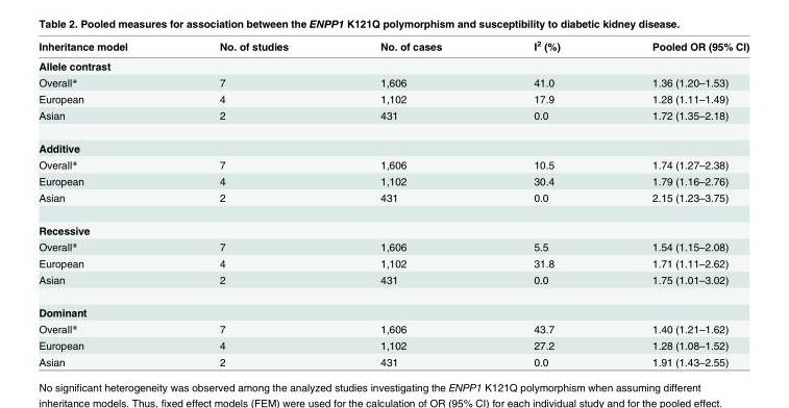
<table><thead><tr><td>Inheritance model</td><td>No. of studies</td><td>No. of cases</td><td>I<sup>2</sup> (%)</td><td>Pooled OR (95% CI)</td></tr></thead><tbody><tr><td colspan="5">Allele contrast</td></tr><tr><td>Overall*</td><td>7</td><td>1,606</td><td>41.0</td><td>1.36 (1.20–1.53)</td></tr><tr><td>European</td><td>4</td><td>1,102</td><td>17.9</td><td>1.28 (1.11–1.49)</td></tr><tr><td>Asian</td><td>2</td><td>431</td><td>0.0</td><td>1.72 (1.35–2.18)</td></tr><tr><td colspan="5">Additive</td></tr><tr><td>Overall*</td><td>7</td><td>1,606</td><td>10.5</td><td>1.74 (1.27–2.38)</td></tr><tr><td>European</td><td>4</td><td>1,102</td><td>30.4</td><td>1.79 (1.16–2.76)</td></tr><tr><td>Asian</td><td>2</td><td>431</td><td>0.0</td><td>2.15 (1.23–3.75)</td></tr><tr><td colspan="5">Recessive</td></tr><tr><td>Overall*</td><td>7</td><td>1,606</td><td>5.5</td><td>1.54 (1.15–2.08)</td></tr><tr><td>European</td><td>4</td><td>1,102</td><td>31.8</td><td>1.71 (1.11–2.62)</td></tr><tr><td>Asian</td><td>2</td><td>431</td><td>0.0</td><td>1.75 (1.01–3.02)</td></tr><tr><td colspan="5">Dominant</td></tr><tr><td>Overall*</td><td>7</td><td>1,606</td><td>43.7</td><td>1.40 (1.21–1.62)</td></tr><tr><td>European</td><td>4</td><td>1,102</td><td>27.2</td><td>1.28 (1.08–1.52)</td></tr><tr><td>Asian</td><td>2</td><td>431</td><td>0.0</td><td>1.91 (1.43–2.55)</td></tr></tbody></table>